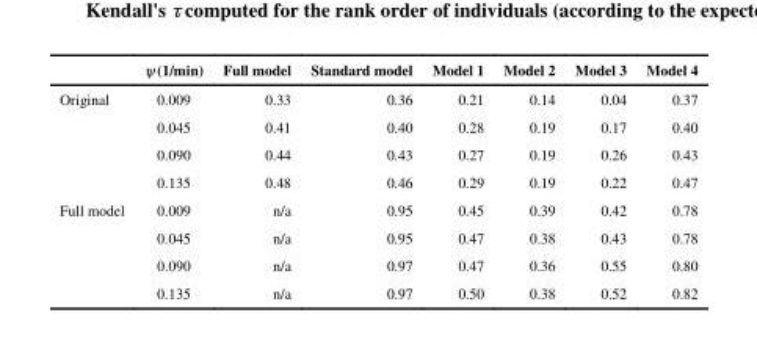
<table><thead><tr><td></td><td>ψ (1/min)</td><td>Full model</td><td>Standard model</td><td>Model 1</td><td>Model 2</td><td>Model 3</td><td>Model 4</td></tr></thead><tbody><tr><td rowspan="4">Original</td><td>0.009</td><td>0.33</td><td>0.36</td><td>0.21</td><td>0.14</td><td>0.04</td><td>0.37</td></tr><tr><td>0.045</td><td>0.41</td><td>0.40</td><td>0.28</td><td>0.19</td><td>0.17</td><td>0.40</td></tr><tr><td>0.090</td><td>0.44</td><td>0.43</td><td>0.27</td><td>0.19</td><td>0.26</td><td>0.43</td></tr><tr><td>0.135</td><td>0.48</td><td>0.46</td><td>0.29</td><td>0.19</td><td>0.22</td><td>0.47</td></tr><tr><td rowspan="4">Full model</td><td>0.009</td><td>n/a</td><td>0.95</td><td>0.45</td><td>0.39</td><td>0.42</td><td>0.78</td></tr><tr><td>0.045</td><td>n/a</td><td>0.95</td><td>0.47</td><td>0.38</td><td>0.43</td><td>0.78</td></tr><tr><td>0.090</td><td>n/a</td><td>0.97</td><td>0.47</td><td>0.36</td><td>0.55</td><td>0.80</td></tr><tr><td>0.135</td><td>n/a</td><td>0.97</td><td>0.50</td><td>0.38</td><td>0.52</td><td>0.82</td></tr></tbody></table>